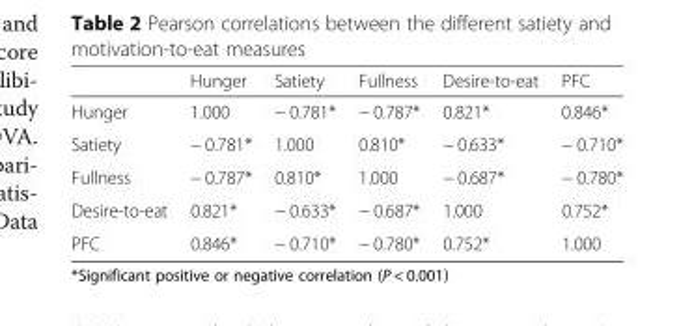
<table><thead><tr><td></td><td>Hunger</td><td>Satiety</td><td>Fullness</td><td>Desire-to-eat</td><td>PFC</td></tr></thead><tbody><tr><td>Hunger</td><td>1.000</td><td>− 0.781*</td><td>− 0.787*</td><td>0.821*</td><td>0.846*</td></tr><tr><td>Satiety</td><td>− 0.781*</td><td>1.000</td><td>0.810*</td><td>− 0.633*</td><td>− 0.710*</td></tr><tr><td>Fullness</td><td>− 0.787*</td><td>0.810*</td><td>1.000</td><td>− 0.687*</td><td>− 0.780*</td></tr><tr><td>Desire-to-eat</td><td>0.821*</td><td>− 0.633*</td><td>− 0.687*</td><td>1.000</td><td>0.752*</td></tr><tr><td>PFC</td><td>0.846*</td><td>− 0.710*</td><td>− 0.780*</td><td>0.752*</td><td>1.000</td></tr></tbody></table>